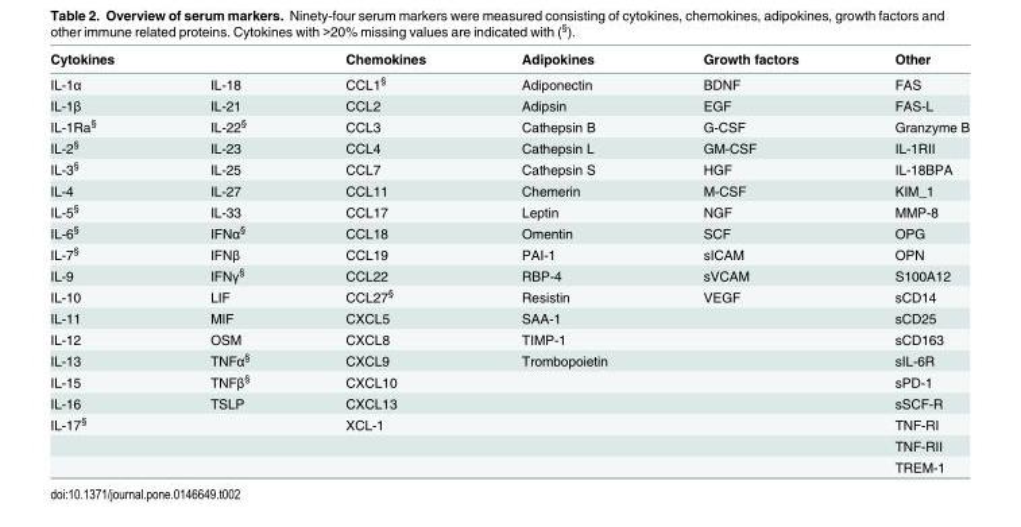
<table><thead><tr><td>Cytokines</td><td></td><td>Chemokines</td><td>Adipokines</td><td>Growth factors</td><td>Other</td></tr></thead><tbody><tr><td>IL-1α</td><td>IL-18</td><td>CCL1<sup>§</sup></td><td>Adiponectin</td><td>BDNF</td><td>FAS</td></tr><tr><td>IL-1β</td><td>IL-21</td><td>CCL2</td><td>Adipsin</td><td>EGF</td><td>FAS-L</td></tr><tr><td>IL-1Ra<sup>§</sup></td><td>IL-22<sup>§</sup></td><td>CCL3</td><td>Cathepsin B</td><td>G-CSF</td><td>Granzyme B</td></tr><tr><td>IL-2<sup>§</sup></td><td>IL-23</td><td>CCL4</td><td>Cathepsin L</td><td>GM-CSF</td><td>IL-1RII</td></tr><tr><td>IL-3<sup>§</sup></td><td>IL-25</td><td>CCL7</td><td>Cathepsin S</td><td>HGF</td><td>IL-18BPA</td></tr><tr><td>IL-4</td><td>IL-27</td><td>CCL11</td><td>Chemerin</td><td>M-CSF</td><td>KIM_1</td></tr><tr><td>IL-5<sup>§</sup></td><td>IL-33</td><td>CCL17</td><td>Leptin</td><td>NGF</td><td>MMP-8</td></tr><tr><td>IL-6<sup>§</sup></td><td>IFNα<sup>§</sup></td><td>CCL18</td><td>Omentin</td><td>SCF</td><td>OPG</td></tr><tr><td>IL-7<sup>§</sup></td><td>IFNβ</td><td>CCL19</td><td>PAI-1</td><td>sICAM</td><td>OPN</td></tr><tr><td>IL-9</td><td>IFNγ<sup>§</sup></td><td>CCL22</td><td>RBP-4</td><td>sVCAM</td><td>S100A12</td></tr><tr><td>IL-10</td><td>LIF</td><td>CCL27<sup>§</sup></td><td>Resistin</td><td>VEGF</td><td>sCD14</td></tr><tr><td>IL-11</td><td>MIF</td><td>CXCL5</td><td>SAA-1</td><td></td><td>sCD25</td></tr><tr><td>IL-12</td><td>OSM</td><td>CXCL8</td><td>TIMP-1</td><td></td><td>sCD163</td></tr><tr><td>IL-13</td><td>TNFα<sup>§</sup></td><td>CXCL9</td><td>Trombopoietin</td><td></td><td>sIL-6R</td></tr><tr><td>IL-15</td><td>TNFβ<sup>§</sup></td><td>CXCL10</td><td></td><td></td><td>sPD-1</td></tr><tr><td>IL-16</td><td>TSLP</td><td>CXCL13</td><td></td><td></td><td>sSCF-R</td></tr><tr><td rowspan="3">IL-17<sup>§</sup></td><td></td><td>XCL-1</td><td></td><td></td><td>TNF-RI</td></tr><tr><td></td><td></td><td></td><td></td><td>TNF-RII</td></tr><tr><td></td><td></td><td></td><td></td><td>TREM-1</td></tr></tbody></table>